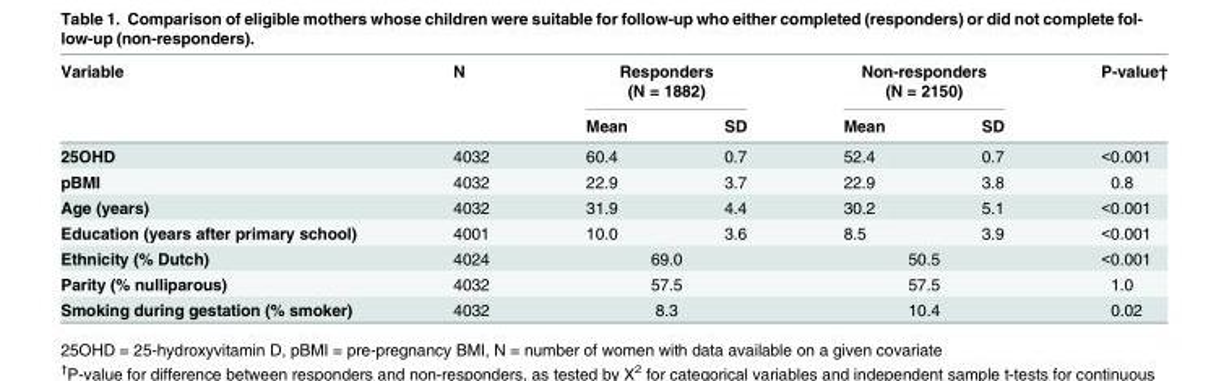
<table><thead><tr><td rowspan="2">Variable</td><td rowspan="2">N</td><td colspan="2">Responders (N = 1882)</td><td colspan="2">Non-responders (N = 2150)</td><td rowspan="2">P-value†</td></tr><tr><td>Mean</td><td>SD</td><td>Mean</td><td>SD</td></tr></thead><tbody><tr><td>25OHD</td><td>4032</td><td>60.4</td><td>0.7</td><td>52.4</td><td>0.7</td><td>&lt;0.001</td></tr><tr><td>pBMI</td><td>4032</td><td>22.9</td><td>3.7</td><td>22.9</td><td>3.8</td><td>0.8</td></tr><tr><td>Age (years)</td><td>4032</td><td>31.9</td><td>4.4</td><td>30.2</td><td>5.1</td><td>&lt;0.001</td></tr><tr><td>Education (years after primary school)</td><td>4001</td><td>10.0</td><td>3.6</td><td>8.5</td><td>3.9</td><td>&lt;0.001</td></tr><tr><td>Ethnicity (% Dutch)</td><td>4024</td><td colspan="2">69.0</td><td colspan="2">50.5</td><td>&lt;0.001</td></tr><tr><td>Parity (% nulliparous)</td><td>4032</td><td colspan="2">57.5</td><td colspan="2">57.5</td><td>1.0</td></tr><tr><td>Smoking during gestation (% smoker)</td><td>4032</td><td colspan="2">8.3</td><td colspan="2">10.4</td><td>0.02</td></tr></tbody></table>